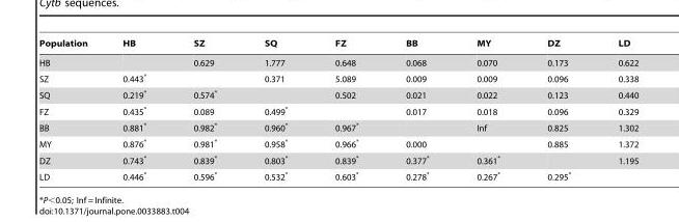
<table><thead><tr><td>Population</td><td>HB</td><td>SZ</td><td>SQ</td><td>FZ</td><td>BB</td><td>MY</td><td>DZ</td><td>LD</td></tr></thead><tbody><tr><td>HB</td><td></td><td>0.629</td><td>1.777</td><td>0.648</td><td>0.068</td><td>0.070</td><td>0.173</td><td>0.622</td></tr><tr><td>SZ</td><td>0.443*</td><td></td><td>0.371</td><td>5.089</td><td>0.009</td><td>0.009</td><td>0.096</td><td>0.338</td></tr><tr><td>SQ</td><td>0.219*</td><td>0.574*</td><td></td><td>0.502</td><td>0.021</td><td>0.022</td><td>0.123</td><td>0.440</td></tr><tr><td>FZ</td><td>0.435*</td><td>0.089</td><td>0.499*</td><td></td><td>0.017</td><td>0.018</td><td>0.096</td><td>0.329</td></tr><tr><td>BB</td><td>0.881*</td><td>0.982*</td><td>0.960*</td><td>0.967*</td><td></td><td>Inf</td><td>0.825</td><td>1.302</td></tr><tr><td>MY</td><td>0.876*</td><td>0.981*</td><td>0.958*</td><td>0.966*</td><td>0.000</td><td></td><td>0.885</td><td>1.372</td></tr><tr><td>DZ</td><td>0.743*</td><td>0.839*</td><td>0.803*</td><td>0.839*</td><td>0.377*</td><td>0.361*</td><td></td><td>1.195</td></tr><tr><td>LD</td><td>0.446*</td><td>0.596*</td><td>0.532*</td><td>0.603*</td><td>0.278*</td><td>0.267*</td><td>0.295*</td><td></td></tr></tbody></table>